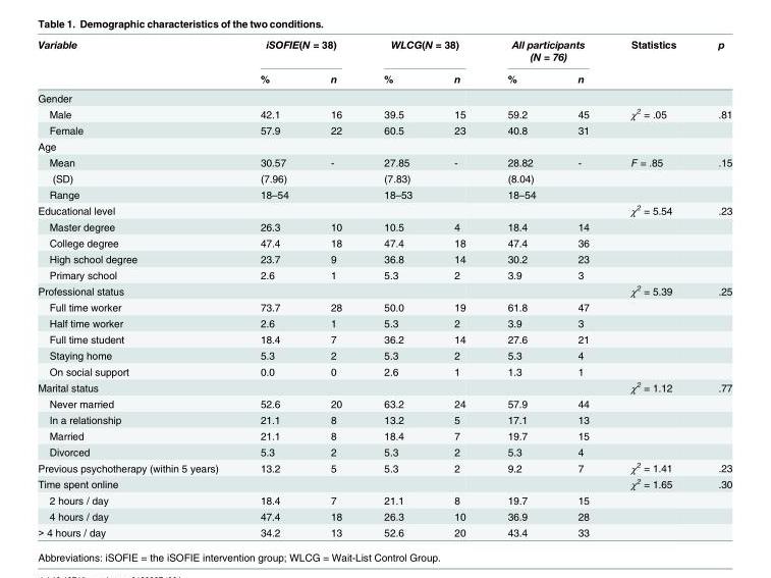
<table><thead><tr><td rowspan="2">Variable</td><td colspan="2">iSOFIE(N = 38)</td><td colspan="2">WLCG(N = 38)</td><td colspan="2">All participants (N = 76)</td><td rowspan="2">Statistics</td><td rowspan="2">p</td></tr><tr><td>%</td><td>n</td><td>%</td><td>n</td><td>%</td><td>n</td></tr></thead><tbody><tr><td colspan="9">Gender</td></tr><tr><td>Male</td><td>42.1</td><td>16</td><td>39.5</td><td>15</td><td>59.2</td><td>45</td><td>χ<sup>2</sup> = .05</td><td>.81</td></tr><tr><td>Female</td><td>57.9</td><td>22</td><td>60.5</td><td>23</td><td>40.8</td><td>31</td><td></td><td></td></tr><tr><td colspan="9">Age</td></tr><tr><td>Mean</td><td>30.57</td><td>-</td><td>27.85</td><td>-</td><td>28.82</td><td>-</td><td>F = .85</td><td>.15</td></tr><tr><td>(SD)</td><td>(7.96)</td><td></td><td>(7.83)</td><td></td><td>(8.04)</td><td></td><td></td><td></td></tr><tr><td>Range</td><td>18–54</td><td></td><td>18–53</td><td></td><td>18–54</td><td></td><td></td><td></td></tr><tr><td>Educational level</td><td></td><td></td><td></td><td></td><td></td><td></td><td>χ<sup>2</sup> = 5.54</td><td>.23</td></tr><tr><td>Master degree</td><td>26.3</td><td>10</td><td>10.5</td><td>4</td><td>18.4</td><td>14</td><td></td><td></td></tr><tr><td>College degree</td><td>47.4</td><td>18</td><td>47.4</td><td>18</td><td>47.4</td><td>36</td><td></td><td></td></tr><tr><td>High school degree</td><td>23.7</td><td>9</td><td>36.8</td><td>14</td><td>30.2</td><td>23</td><td></td><td></td></tr><tr><td>Primary school</td><td>2.6</td><td>1</td><td>5.3</td><td>2</td><td>3.9</td><td>3</td><td></td><td></td></tr><tr><td>Professional status</td><td></td><td></td><td></td><td></td><td></td><td></td><td>χ<sup>2</sup> = 5.39</td><td>.25</td></tr><tr><td>Full time worker</td><td>73.7</td><td>28</td><td>50.0</td><td>19</td><td>61.8</td><td>47</td><td></td><td></td></tr><tr><td>Half time worker</td><td>2.6</td><td>1</td><td>5.3</td><td>2</td><td>3.9</td><td>3</td><td></td><td></td></tr><tr><td>Full time student</td><td>18.4</td><td>7</td><td>36.2</td><td>14</td><td>27.6</td><td>21</td><td></td><td></td></tr><tr><td>Staying home</td><td>5.3</td><td>2</td><td>5.3</td><td>2</td><td>5.3</td><td>4</td><td></td><td></td></tr><tr><td>On social support</td><td>0.0</td><td>0</td><td>2.6</td><td>1</td><td>1.3</td><td>1</td><td></td><td></td></tr><tr><td>Marital status</td><td></td><td></td><td></td><td></td><td></td><td></td><td>χ<sup>2</sup> = 1.12</td><td>.77</td></tr><tr><td>Never married</td><td>52.6</td><td>20</td><td>63.2</td><td>24</td><td>57.9</td><td>44</td><td></td><td></td></tr><tr><td>In a relationship</td><td>21.1</td><td>8</td><td>13.2</td><td>5</td><td>17.1</td><td>13</td><td></td><td></td></tr><tr><td>Married</td><td>21.1</td><td>8</td><td>18.4</td><td>7</td><td>19.7</td><td>15</td><td></td><td></td></tr><tr><td>Divorced</td><td>5.3</td><td>2</td><td>5.3</td><td>2</td><td>5.3</td><td>4</td><td></td><td></td></tr><tr><td>Previous psychotherapy (within 5 years)</td><td>13.2</td><td>5</td><td>5.3</td><td>2</td><td>9.2</td><td>7</td><td>χ<sup>2</sup> = 1.41</td><td>.23</td></tr><tr><td>Time spent online</td><td></td><td></td><td></td><td></td><td></td><td></td><td>χ<sup>2</sup> = 1.65</td><td>.30</td></tr><tr><td>2 hours / day</td><td>18.4</td><td>7</td><td>21.1</td><td>8</td><td>19.7</td><td>15</td><td></td><td></td></tr><tr><td>4 hours / day</td><td>47.4</td><td>18</td><td>26.3</td><td>10</td><td>36.9</td><td>28</td><td></td><td></td></tr><tr><td>&gt; 4 hours / day</td><td>34.2</td><td>13</td><td>52.6</td><td>20</td><td>43.4</td><td>33</td><td></td><td></td></tr></tbody></table>